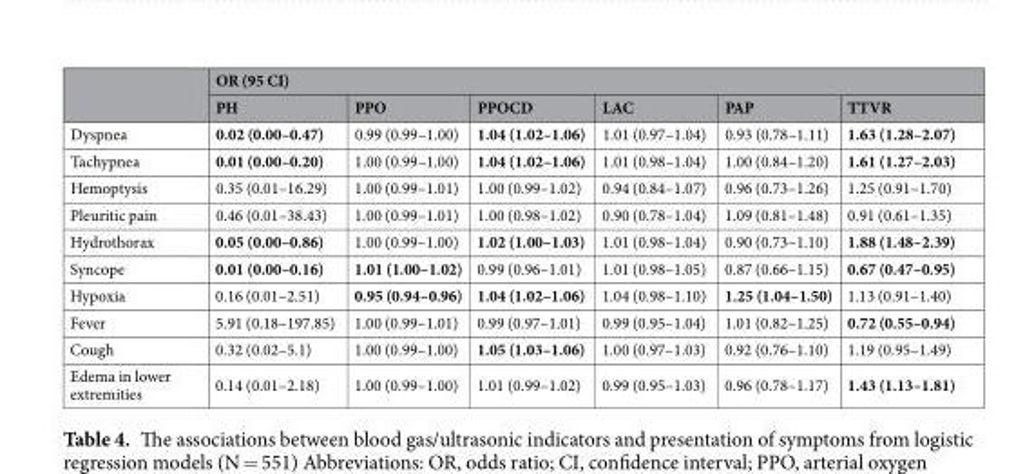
<table><thead><tr><td rowspan="2"></td><td colspan="6">OR (95 CI)</td></tr><tr><td>PH</td><td>PPO</td><td>PPOCD</td><td>LAC</td><td>PAP</td><td>TTVR</td></tr></thead><tbody><tr><td>Dyspnea</td><td>0.02 (0.00–0.47)</td><td>0.99 (0.99–1.00)</td><td>1.04 (1.02–1.06)</td><td>1.01 (0.97–1.04)</td><td>0.93 (0.78–1.11)</td><td>1.63 (1.28–2.07)</td></tr><tr><td>Tachypnea</td><td>0.01 (0.00–0.20)</td><td>1.00 (0.99–1.00)</td><td>1.04 (1.02–1.06)</td><td>1.01 (0.98–1.04)</td><td>1.00 (0.84–1.20)</td><td>1.61 (1.27–2.03)</td></tr><tr><td>Hemoptysis</td><td>0.35 (0.01–16.29)</td><td>1.00 (0.99–1.01)</td><td>1.00 (0.99–1.02)</td><td>0.94 (0.84–1.07)</td><td>0.96 (0.73–1.26)</td><td>1.25 (0.91–1.70)</td></tr><tr><td>Pleuritic pain</td><td>0.46 (0.01–38.43)</td><td>1.00 (0.99–1.01)</td><td>1.00 (0.98–1.02)</td><td>0.90 (0.78–1.04)</td><td>1.09 (0.81–1.48)</td><td>0.91 (0.61–1.35)</td></tr><tr><td>Hydrothorax</td><td>0.05 (0.00–0.86)</td><td>1.00 (0.99–1.00)</td><td>1.02 (1.00–1.03)</td><td>1.01 (0.98–1.04)</td><td>0.90 (0.73–1.10)</td><td>1.88 (1.48–2.39)</td></tr><tr><td>Syncope</td><td>0.01 (0.00–0.16)</td><td>1.01 (1.00–1.02)</td><td>0.99 (0.96–1.01)</td><td>1.01 (0.98–1.05)</td><td>0.87 (0.66–1.15)</td><td>0.67 (0.47–0.95)</td></tr><tr><td>Hypoxia</td><td>0.16 (0.01–2.51)</td><td>0.95 (0.94–0.96)</td><td>1.04 (1.02–1.06)</td><td>1.04 (0.98–1.10)</td><td>1.25 (1.04–1.50)</td><td>1.13 (0.91–1.40)</td></tr><tr><td>Fever</td><td>5.91 (0.18–197.85)</td><td>1.00 (0.99–1.01)</td><td>0.99 (0.97–1.01)</td><td>0.99 (0.95–1.04)</td><td>1.01 (0.82–1.25)</td><td>0.72 (0.55–0.94)</td></tr><tr><td>Cough</td><td>0.32 (0.02–5.1)</td><td>1.00 (0.99–1.00)</td><td>1.05 (1.03–1.06)</td><td>1.00 (0.97–1.03)</td><td>0.92 (0.76–1.10)</td><td>1.19 (0.95–1.49)</td></tr><tr><td>Edema in lower extremities</td><td>0.14 (0.01–2.18)</td><td>1.00 (0.99–1.00)</td><td>1.01 (0.99–1.02)</td><td>0.99 (0.95–1.03)</td><td>0.96 (0.78–1.17)</td><td>1.43 (1.13–1.81)</td></tr></tbody></table>